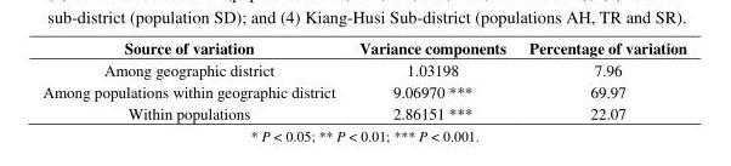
<table><thead><tr><td>Source of variation</td><td>Variance components</td><td>Percentage of variation</td></tr></thead><tbody><tr><td>Among geographic district</td><td>1.03198</td><td>7.96</td></tr><tr><td>Among populations within geographic district</td><td>9.06970 ***</td><td>69.97</td></tr><tr><td>Within populations</td><td>2.86151 ***</td><td>22.07</td></tr></tbody></table>